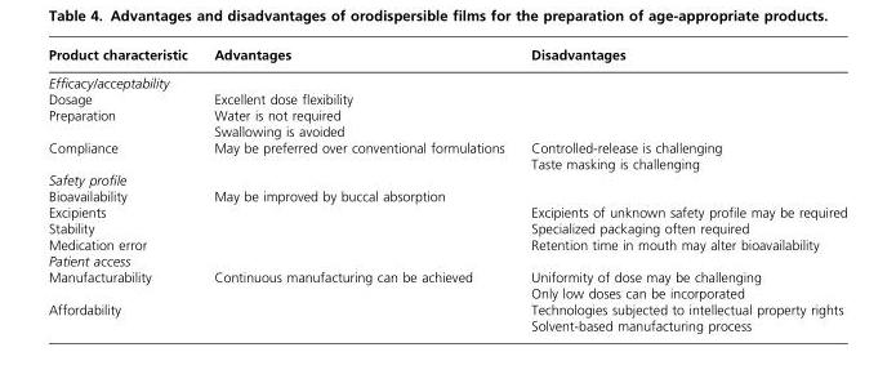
<table><thead><tr><td>Product characteristic</td><td>Advantages</td><td>Disadvantages</td></tr></thead><tbody><tr><td colspan="3">Efficacy/acceptability</td></tr><tr><td>Dosage</td><td>Excellent dose flexibility</td><td></td></tr><tr><td>Preparation</td><td>Water is not required Swallowing is avoided</td><td></td></tr><tr><td>Compliance</td><td>May be preferred over conventional formulations</td><td>Controlled-release is challenging Taste masking is challenging</td></tr><tr><td colspan="3">Safety profile</td></tr><tr><td>Bioavailability</td><td>May be improved by buccal absorption</td><td></td></tr><tr><td>Excipients</td><td></td><td>Excipients of unknown safety profile may be required</td></tr><tr><td>Stability</td><td></td><td>Specialized packaging often required</td></tr><tr><td>Medication error</td><td></td><td>Retention time in mouth may alter bioavailability</td></tr><tr><td colspan="3">Patient access</td></tr><tr><td>Manufacturability</td><td>Continuous manufacturing can be achieved</td><td>Uniformity of dose may be challenging Only low doses can be incorporated</td></tr><tr><td>Affordability</td><td></td><td>Technologies subjected to intellectual property rights Solvent-based manufacturing process</td></tr></tbody></table>